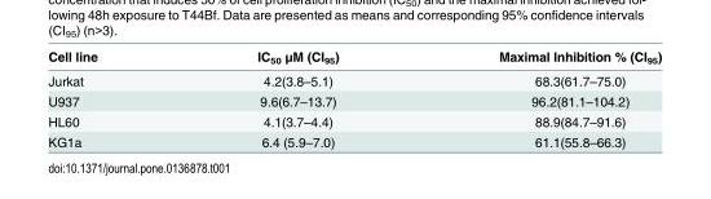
<table><thead><tr><td>Cell line</td><td>IC<sub>50</sub> μM (CI<sub>95</sub>)</td><td>Maximal Inhibition % (CI<sub>95</sub>)</td></tr></thead><tbody><tr><td>Jurkat</td><td>4.2(3.8–5.1)</td><td>68.3(61.7–75.0)</td></tr><tr><td>U937</td><td>9.6(6.7–13.7)</td><td>96.2(81.1–104.2)</td></tr><tr><td>HL60</td><td>4.1(3.7–4.4)</td><td>88.9(84.7–91.6)</td></tr><tr><td>KG1a</td><td>6.4 (5.9–7.0)</td><td>61.1(55.8–66.3)</td></tr></tbody></table>